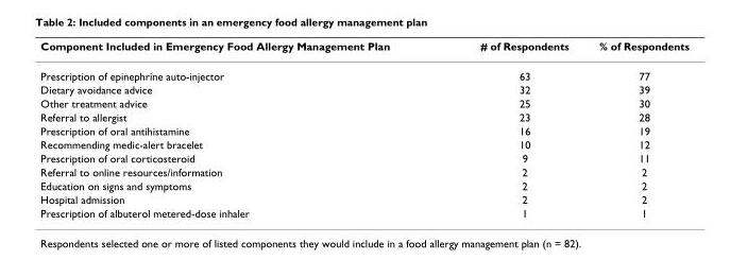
<table><thead><tr><td>Component Included in Emergency Food Allergy Management Plan</td><td># of Respondents</td><td>% of Respondents</td></tr></thead><tbody><tr><td>Prescription of epinephrine auto-injector</td><td>63</td><td>77</td></tr><tr><td>Dietary avoidance advice</td><td>32</td><td>39</td></tr><tr><td>Other treatment advice</td><td>25</td><td>30</td></tr><tr><td>Referral to allergist</td><td>23</td><td>28</td></tr><tr><td>Prescription of oral antihistamine</td><td>16</td><td>19</td></tr><tr><td>Recommending medic-alert bracelet</td><td>10</td><td>12</td></tr><tr><td>Prescription of oral corticosteroid</td><td>9</td><td>11</td></tr><tr><td>Referral to online resources/information</td><td>2</td><td>2</td></tr><tr><td>Education on signs and symptoms</td><td>2</td><td>2</td></tr><tr><td>Hospital admission</td><td>2</td><td>2</td></tr><tr><td>Prescription of albuterol metered-dose inhaler</td><td>1</td><td>1</td></tr></tbody></table>